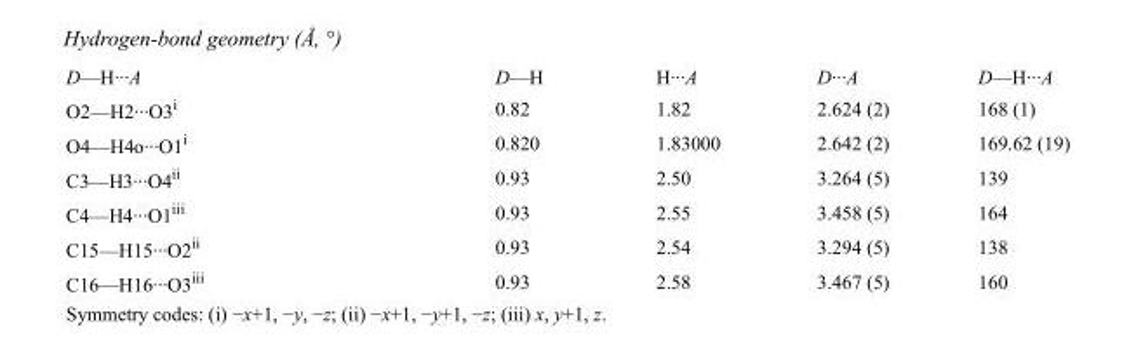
<table><tbody><tr><td>D—H···A</td><td>D—H</td><td>H···A</td><td>D···A</td><td>D—H···A</td></tr><tr><td>O2—H2···O3<sup>i</sup></td><td>0.82</td><td>1.82</td><td>2.624 (2)</td><td>168 (1)</td></tr><tr><td>O4—H4o···O1<sup>i</sup></td><td>0.820</td><td>1.83000</td><td>2.642 (2)</td><td>169.62 (19)</td></tr><tr><td>C3—H3···O4<sup>ii</sup></td><td>0.93</td><td>2.50</td><td>3.264 (5)</td><td>139</td></tr><tr><td>C4—H4···O1<sup>iii</sup></td><td>0.93</td><td>2.55</td><td>3.458 (5)</td><td>164</td></tr><tr><td>C15—H15···O2<sup>ii</sup></td><td>0.93</td><td>2.54</td><td>3.294 (5)</td><td>138</td></tr><tr><td>C16—H16···O3<sup>iii</sup></td><td>0.93</td><td>2.58</td><td>3.467 (5)</td><td>160</td></tr></tbody></table>